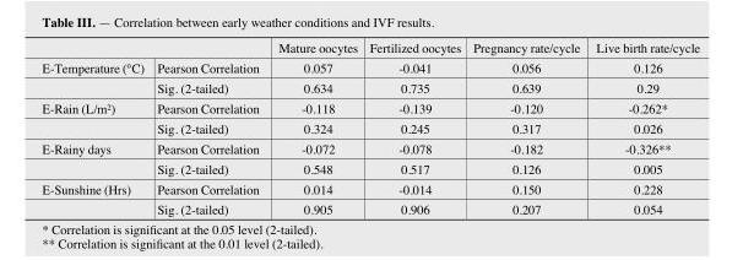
<table><thead><tr><td></td><td></td><td>Mature oocytes</td><td>Fertilized oocytes</td><td>Pregnancy rate/cycle</td><td>Live birth rate/cycle</td></tr></thead><tbody><tr><td rowspan="2">E-Temperature (°C)</td><td>Pearson Correlation</td><td>0.057</td><td>-0.041</td><td>0.056</td><td>0.126</td></tr><tr><td>Sig. (2-tailed)</td><td>0.634</td><td>0.735</td><td>0.639</td><td>0.29</td></tr><tr><td rowspan="2">E-Rain (L/m²)</td><td>Pearson Correlation</td><td>-0.118</td><td>-0.139</td><td>-0.120</td><td>-0.262*</td></tr><tr><td>Sig. (2-tailed)</td><td>0.324</td><td>0.245</td><td>0.317</td><td>0.026</td></tr><tr><td rowspan="2">E-Rainy days</td><td>Pearson Correlation</td><td>-0.072</td><td>-0.078</td><td>-0.182</td><td>-0.326**</td></tr><tr><td>Sig. (2-tailed)</td><td>0.548</td><td>0.517</td><td>0.126</td><td>0.005</td></tr><tr><td rowspan="2">E-Sunshine (Hrs)</td><td>Pearson Correlation</td><td>0.014</td><td>-0.014</td><td>0.150</td><td>0.228</td></tr><tr><td>Sig. (2-tailed)</td><td>0.905</td><td>0.906</td><td>0.207</td><td>0.054</td></tr></tbody></table>